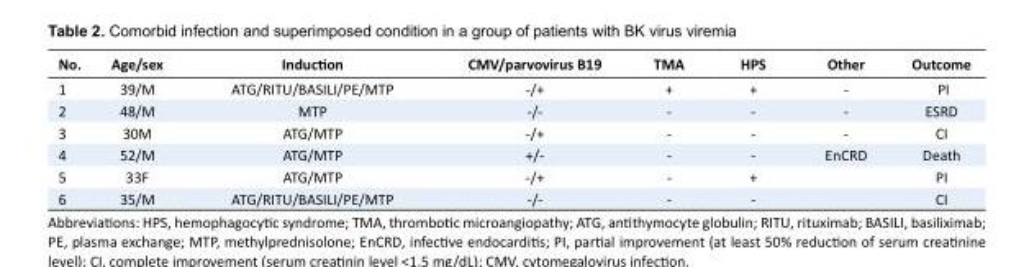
<table><tbody><tr><td>No.</td><td>Age/sex</td><td>Induction</td><td>CMV/parvovirus B19</td><td>TMA</td><td>HPS</td><td>Other</td><td>Outcome</td></tr><tr><td>1</td><td>39/M</td><td>ATG/RITU/BASILI/PE/MTP</td><td>-/+</td><td>+</td><td>+</td><td>-</td><td>PI</td></tr><tr><td>2</td><td>48/M</td><td>MTP</td><td>-/-</td><td>-</td><td>-</td><td>-</td><td>ESRD</td></tr><tr><td>3</td><td>30M</td><td>ATG/MTP</td><td>-/+</td><td>-</td><td>-</td><td>-</td><td>CI</td></tr><tr><td>4</td><td>52/M</td><td>ATG/MTP</td><td>+/-</td><td>-</td><td>-</td><td>EnCRD</td><td>Death</td></tr><tr><td>5</td><td>33F</td><td>ATG/MTP</td><td>-/+</td><td>-</td><td>+</td><td></td><td>PI</td></tr><tr><td>6</td><td>35/M</td><td>ATG/RITU/BASILI/PE/MTP</td><td>-/-</td><td>-</td><td>-</td><td></td><td>CI</td></tr></tbody></table>